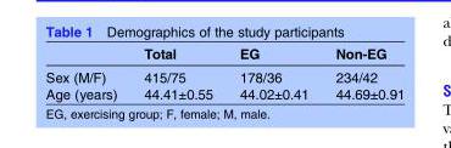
<table><thead><tr><td></td><td>Total</td><td>EG</td><td>Non-EG</td></tr></thead><tbody><tr><td>Sex (M/F)</td><td>415/75</td><td>178/36</td><td>234/42</td></tr><tr><td>Age (years)</td><td>44.41±0.55</td><td>44.02±0.41</td><td>44.69±0.91</td></tr></tbody></table>